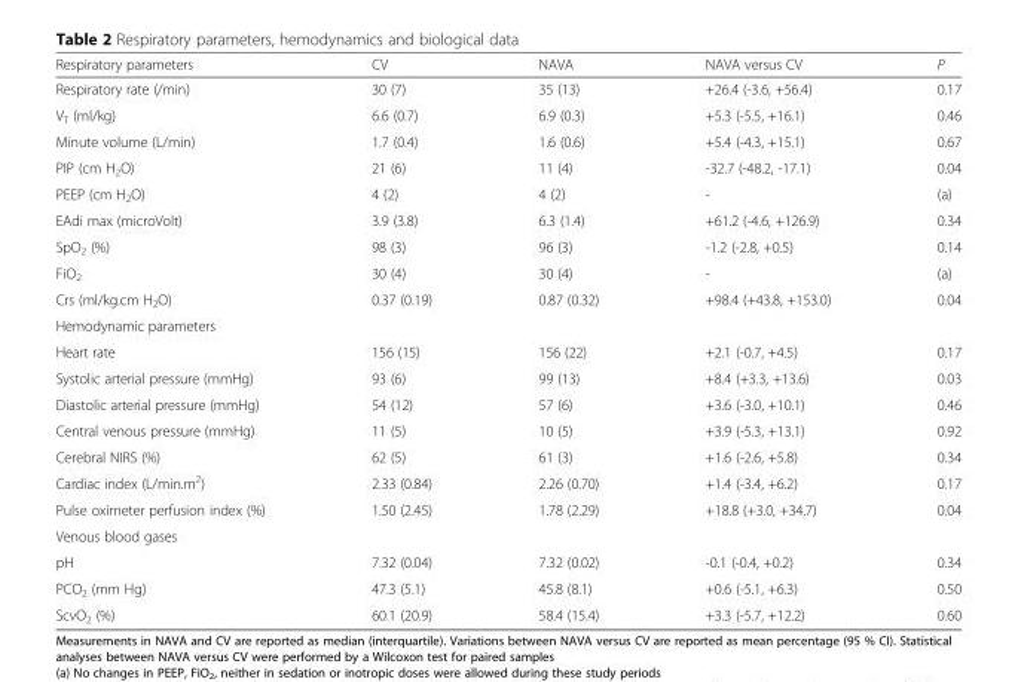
<table><thead><tr><td>Respiratory parameters</td><td>CV</td><td>NAVA</td><td>NAVA versus CV</td><td>P</td></tr></thead><tbody><tr><td>Respiratory rate (/min)</td><td>30 (7)</td><td>35 (13)</td><td>+26.4 (-3.6, +56.4)</td><td>0.17</td></tr><tr><td>V<sub>T</sub> (ml/kg)</td><td>6.6 (0.7)</td><td>6.9 (0.3)</td><td>+5.3 (-5.5, +16.1)</td><td>0.46</td></tr><tr><td>Minute volume (L/min)</td><td>1.7 (0.4)</td><td>1.6 (0.6)</td><td>+5.4 (-4.3, +15.1)</td><td>0.67</td></tr><tr><td>PIP (cm H<sub>2</sub>O)</td><td>21 (6)</td><td>11 (4)</td><td>-32.7 (-48.2, -17.1)</td><td>0.04</td></tr><tr><td>PEEP (cm H<sub>2</sub>O)</td><td>4 (2)</td><td>4 (2)</td><td>-</td><td>(a)</td></tr><tr><td>EAdi max (microVolt)</td><td>3.9 (3.8)</td><td>6.3 (1.4)</td><td>+61.2 (-4.6, +126.9)</td><td>0.34</td></tr><tr><td>SpO<sub>2</sub> (%)</td><td>98 (3)</td><td>96 (3)</td><td>-1.2 (-2.8, +0.5)</td><td>0.14</td></tr><tr><td>FiO<sub>2</sub></td><td>30 (4)</td><td>30 (4)</td><td>-</td><td>(a)</td></tr><tr><td>Crs (ml/kg.cm H<sub>2</sub>O)</td><td>0.37 (0.19)</td><td>0.87 (0.32)</td><td>+98.4 (+43.8, +153.0)</td><td>0.04</td></tr><tr><td colspan="5">Hemodynamic parameters</td></tr><tr><td>Heart rate</td><td>156 (15)</td><td>156 (22)</td><td>+2.1 (-0.7, +4.5)</td><td>0.17</td></tr><tr><td>Systolic arterial pressure (mmHg)</td><td>93 (6)</td><td>99 (13)</td><td>+8.4 (+3.3, +13.6)</td><td>0.03</td></tr><tr><td>Diastolic arterial pressure (mmHg)</td><td>54 (12)</td><td>57 (6)</td><td>+3.6 (-3.0, +10.1)</td><td>0.46</td></tr><tr><td>Central venous pressure (mmHg)</td><td>11 (5)</td><td>10 (5)</td><td>+3.9 (-5.3, +13.1)</td><td>0.92</td></tr><tr><td>Cerebral NIRS (%)</td><td>62 (5)</td><td>61 (3)</td><td>+1.6 (-2.6, +5.8)</td><td>0.34</td></tr><tr><td>Cardiac index (L/min.m<sup>2</sup>)</td><td>2.33 (0.84)</td><td>2.26 (0.70)</td><td>+1.4 (-3.4, +6.2)</td><td>0.17</td></tr><tr><td>Pulse oximeter perfusion index (%)</td><td>1.50 (2.45)</td><td>1.78 (2.29)</td><td>+18.8 (+3.0, +34.7)</td><td>0.04</td></tr><tr><td colspan="5">Venous blood gases</td></tr><tr><td>pH</td><td>7.32 (0.04)</td><td>7.32 (0.02)</td><td>-0.1 (-0.4, +0.2)</td><td>0.34</td></tr><tr><td>PCO<sub>2</sub> (mm Hg)</td><td>47.3 (5.1)</td><td>45.8 (8.1)</td><td>+0.6 (-5.1, +6.3)</td><td>0.50</td></tr><tr><td>ScvO<sub>2</sub> (%)</td><td>60.1 (20.9)</td><td>58.4 (15.4)</td><td>+3.3 (-5.7, +12.2)</td><td>0.60</td></tr></tbody></table>